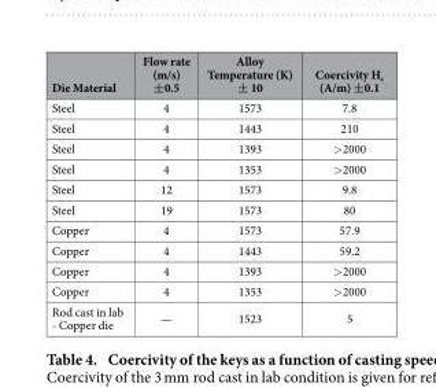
<table><thead><tr><td>Die Material</td><td>Flow rate (m/s) ±0.5</td><td>Alloy Temperature (K) ± 10</td><td>Coercivity H<sub>c</sub> (A/m) ±0.1</td></tr></thead><tbody><tr><td>Steel</td><td>4</td><td>1573</td><td>7.8</td></tr><tr><td>Steel</td><td>4</td><td>1443</td><td>210</td></tr><tr><td>Steel</td><td>4</td><td>1393</td><td>&gt; 2000</td></tr><tr><td>Steel</td><td>4</td><td>1353</td><td>&gt; 2000</td></tr><tr><td>Steel</td><td>12</td><td>1573</td><td>9.8</td></tr><tr><td>Steel</td><td>19</td><td>1573</td><td>80</td></tr><tr><td>Copper</td><td>4</td><td>1573</td><td>57.9</td></tr><tr><td>Copper</td><td>4</td><td>1443</td><td>59.2</td></tr><tr><td>Copper</td><td>4</td><td>1393</td><td>&gt; 2000</td></tr><tr><td>Copper</td><td>4</td><td>1353</td><td>&gt; 2000</td></tr><tr><td>Rod cast in lab - Copper die</td><td>—</td><td>1523</td><td>5</td></tr></tbody></table>